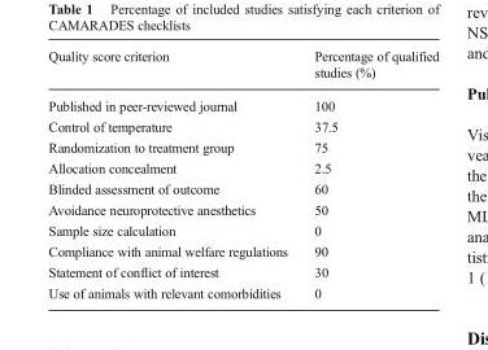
<table><thead><tr><td>Quality score criterion</td><td>Percentage of qualified studies (%)</td></tr></thead><tbody><tr><td>Published in peer-reviewed journal</td><td>100</td></tr><tr><td>Control of temperature</td><td>37.5</td></tr><tr><td>Randomization to treatment group</td><td>75</td></tr><tr><td>Allocation concealment</td><td>2.5</td></tr><tr><td>Blinded assessment of outcome</td><td>60</td></tr><tr><td>Avoidance neuroprotective anesthetics</td><td>50</td></tr><tr><td>Sample size calculation</td><td>0</td></tr><tr><td>Compliance with animal welfare regulations</td><td>90</td></tr><tr><td>Statement of conflict of interest</td><td>30</td></tr><tr><td>Use of animals with relevant comorbidities</td><td>0</td></tr></tbody></table>